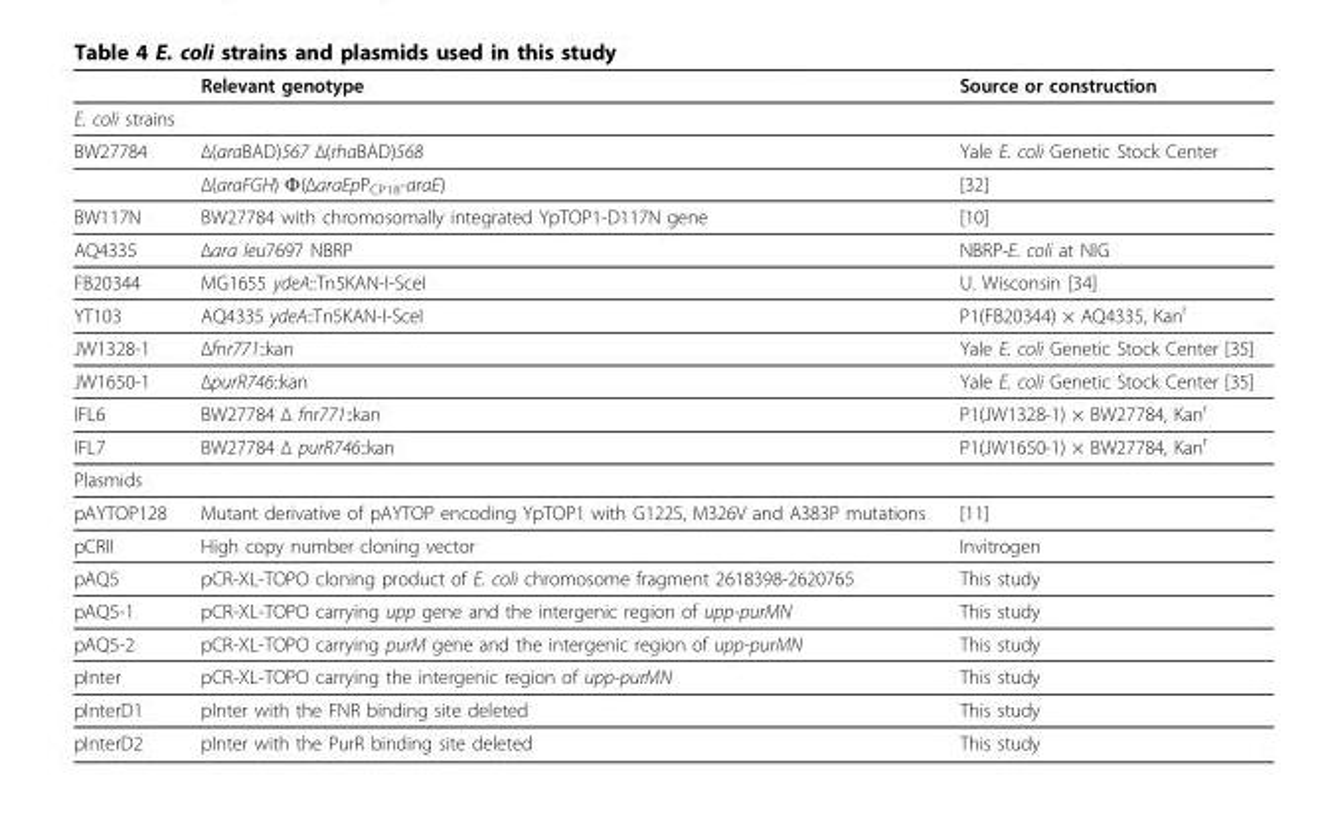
<table><thead><tr><td></td><td>Relevant genotype</td><td>Source or construction</td></tr></thead><tbody><tr><td colspan="3">E. coli strains</td></tr><tr><td rowspan="2">BW27784</td><td>Δ(araBAD)567 Δ(rhaBAD)568</td><td>Yale E. coli Genetic Stock Center</td></tr><tr><td>Δ(araFGH) Φ(ΔaraEpP<sub>CP18</sub>-araE)</td><td>[32]</td></tr><tr><td>BW117N</td><td>BW27784 with chromosomally integrated YpTOP1-D117N gene</td><td>[10]</td></tr><tr><td>AQ4335</td><td>Δara leu7697 NBRP</td><td>NBRP-E. coli at NIG</td></tr><tr><td>FB20344</td><td>MG1655 ydeA::Tn5KAN-I-SceI</td><td>U. Wisconsin [34]</td></tr><tr><td>YT103</td><td>AQ4335 ydeA::Tn5KAN-I-SceI</td><td>P1(FB20344) × AQ4335, Kan<sup>r</sup></td></tr><tr><td>JW1328-1</td><td>Δfnr771::kan</td><td>Yale E. coli Genetic Stock Center [35]</td></tr><tr><td>JW1650-1</td><td>ΔpurR746::kan</td><td>Yale E. coli Genetic Stock Center [35]</td></tr><tr><td>IFL6</td><td>BW27784 Δ fnr771::kan</td><td>P1(JW1328-1) × BW27784, Kan<sup>r</sup></td></tr><tr><td>IFL7</td><td>BW27784 Δ purR746::kan</td><td>P1(JW1650-1) × BW27784, Kan<sup>r</sup></td></tr><tr><td colspan="3">Plasmids</td></tr><tr><td>pAYTOP128</td><td>Mutant derivative of pAYTOP encoding YpTOP1 with G122S, M326V and A383P mutations</td><td>[11]</td></tr><tr><td>pCRII</td><td>High copy number cloning vector</td><td>Invitrogen</td></tr><tr><td>pAQ5</td><td>pCR-XL-TOPO cloning product of E. coli chromosome fragment 2618398-2620765</td><td>This study</td></tr><tr><td>pAQ5-1</td><td>pCR-XL-TOPO carrying upp gene and the intergenic region of upp-purMN</td><td>This study</td></tr><tr><td>pAQ5-2</td><td>pCR-XL-TOPO carrying purM gene and the intergenic region of upp-purMN</td><td>This study</td></tr><tr><td>pInter</td><td>pCR-XL-TOPO carrying the intergenic region of upp-purMN</td><td>This study</td></tr><tr><td>pInterD1</td><td>pInter with the FNR binding site deleted</td><td>This study</td></tr><tr><td>pInterD2</td><td>pInter with the PurR binding site deleted</td><td>This study</td></tr></tbody></table>